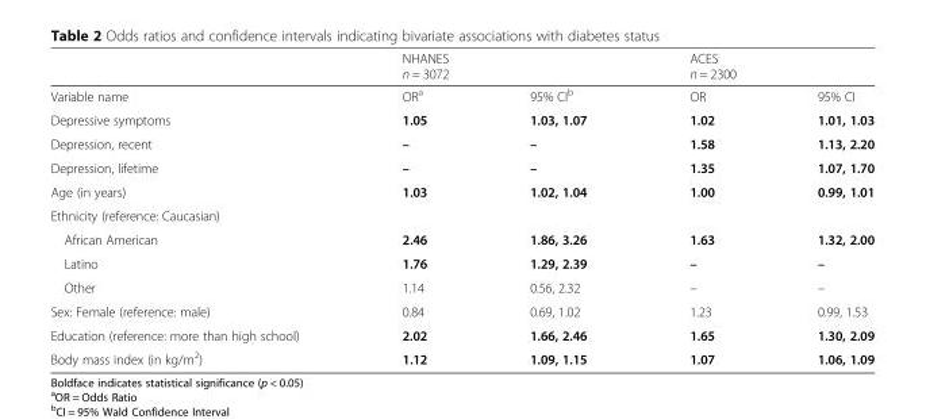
<table><thead><tr><td rowspan="3">Variable name</td><td rowspan="2" colspan="2">NHANES n = 3072</td><td rowspan="2" colspan="2">ACES n = 2300</td></tr><tr></tr><tr><td>OR<sup>a</sup></td><td>95% CI<sup>b</sup></td><td>OR</td><td>95% CI</td></tr></thead><tbody><tr><td>Depressive symptoms</td><td>1.05</td><td>1.03, 1.07</td><td>1.02</td><td>1.01, 1.03</td></tr><tr><td>Depression, recent</td><td>–</td><td>–</td><td>1.58</td><td>1.13, 2.20</td></tr><tr><td>Depression, lifetime</td><td>–</td><td>–</td><td>1.35</td><td>1.07, 1.70</td></tr><tr><td>Age (in years)</td><td>1.03</td><td>1.02, 1.04</td><td>1.00</td><td>0.99, 1.01</td></tr><tr><td colspan="5">Ethnicity (reference: Caucasian)</td></tr><tr><td>African American</td><td>2.46</td><td>1.86, 3.26</td><td>1.63</td><td>1.32, 2.00</td></tr><tr><td>Latino</td><td>1.76</td><td>1.29, 2.39</td><td>–</td><td>–</td></tr><tr><td>Other</td><td>1.14</td><td>0.56, 2.32</td><td>–</td><td>–</td></tr><tr><td>Sex: Female (reference: male)</td><td>0.84</td><td>0.69, 1.02</td><td>1.23</td><td>0.99, 1.53</td></tr><tr><td>Education (reference: more than high school)</td><td>2.02</td><td>1.66, 2.46</td><td>1.65</td><td>1.30, 2.09</td></tr><tr><td>Body mass index (in kg/m<sup>2</sup>)</td><td>1.12</td><td>1.09, 1.15</td><td>1.07</td><td>1.06, 1.09</td></tr></tbody></table>